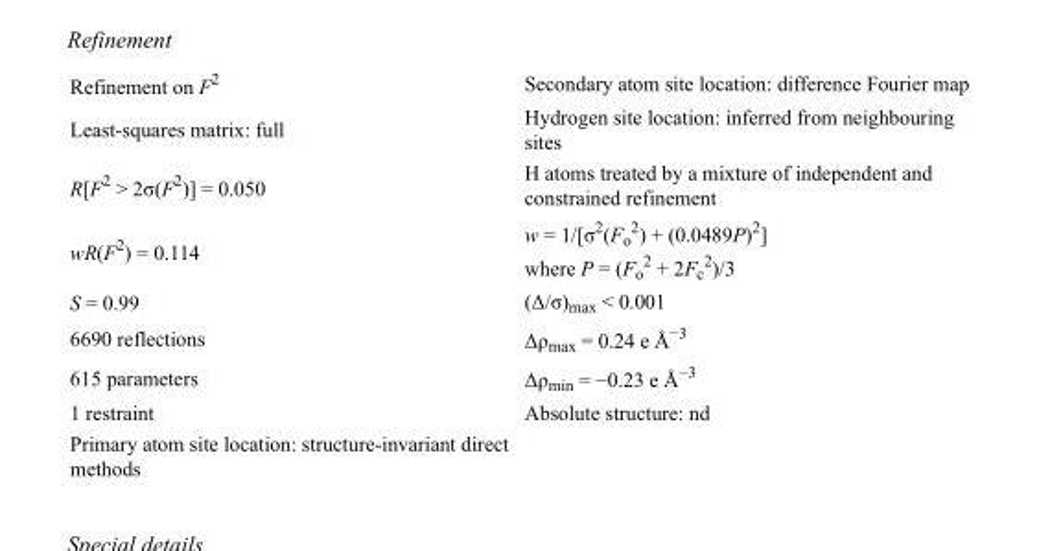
<table><tbody><tr><td>Refinement on F<sup>2</sup></td><td>Secondary atom site location: difference Fourier map</td></tr><tr><td>Least-squares matrix: full</td><td>Hydrogen site location: inferred from neighbouring sites</td></tr><tr><td>R[F<sup>2</sup> &gt; 2σ(F<sup>2</sup>)] = 0.050</td><td>H atoms treated by a mixture of independent and constrained refinement</td></tr><tr><td>wR(F<sup>2</sup>) = 0.114</td><td>w = 1/[σ<sup>2</sup>(F<sub>o</sub> <sup>2</sup>) + (0.0489P)<sup>2</sup>] where P = (F<sub>o</sub> <sup>2</sup> + 2F<sub>c</sub> <sup>2</sup>)/3</td></tr><tr><td>S = 0.99</td><td>(Δ/σ)<sub>max</sub> &lt; 0.001</td></tr><tr><td>6690 reflections</td><td>Δρ<sub>max</sub> = 0.24 e Å<sup>−3</sup></td></tr><tr><td>615 parameters</td><td>Δρ<sub>min</sub> = −0.23 e Å<sup>−3</sup></td></tr><tr><td>1 restraint</td><td>Absolute structure: nd</td></tr><tr><td>Primary atom site location: structure-invariant direct methods</td><td></td></tr></tbody></table>